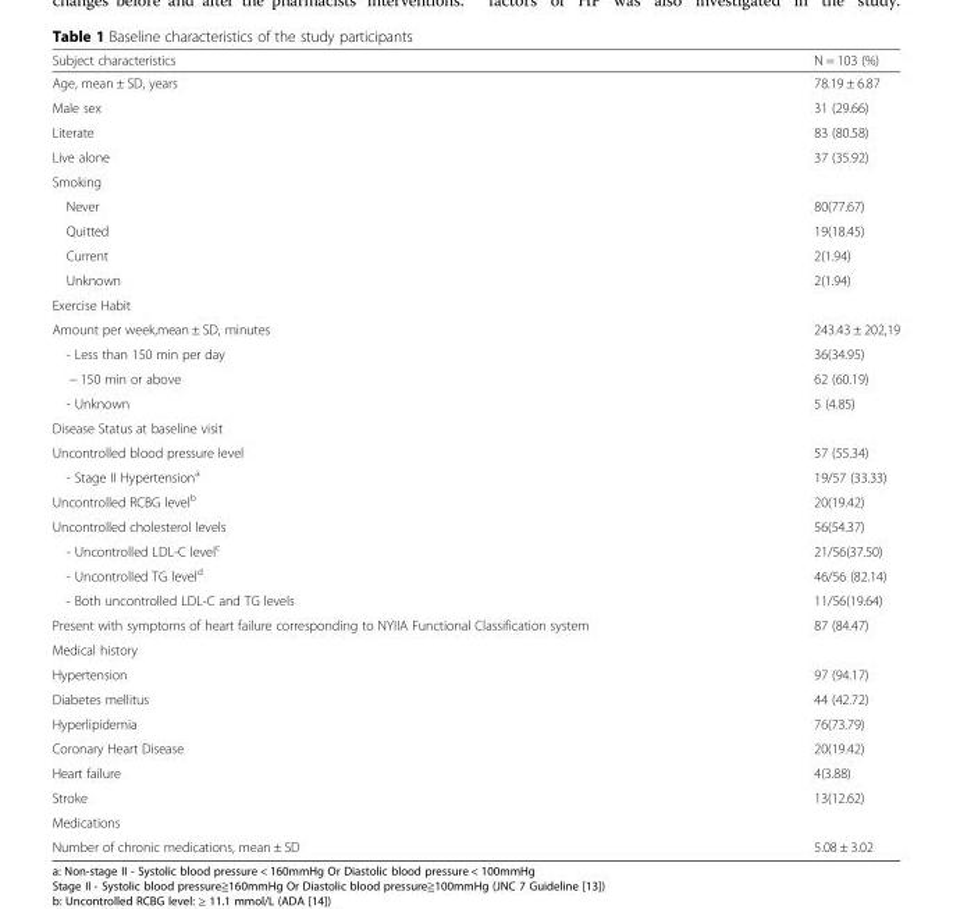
<table><thead><tr><td>Subject characteristics</td><td>N = 103 (%)</td></tr></thead><tbody><tr><td>Age, mean ± SD, years</td><td>78.19 ± 6.87</td></tr><tr><td>Male sex</td><td>31 (29.66)</td></tr><tr><td>Literate</td><td>83 (80.58)</td></tr><tr><td>Live alone</td><td>37 (35.92)</td></tr><tr><td colspan="2">Smoking</td></tr><tr><td>Never</td><td>80(77.67)</td></tr><tr><td>Quitted</td><td>19(18.45)</td></tr><tr><td>Current</td><td>2(1.94)</td></tr><tr><td>Unknown</td><td>2(1.94)</td></tr><tr><td colspan="2">Exercise Habit</td></tr><tr><td>Amount per week,mean ± SD, minutes</td><td>243.43 ± 202,19</td></tr><tr><td>- Less than 150 min per day</td><td>36(34.95)</td></tr><tr><td>− 150 min or above</td><td>62 (60.19)</td></tr><tr><td>- Unknown</td><td>5 (4.85)</td></tr><tr><td colspan="2">Disease Status at baseline visit</td></tr><tr><td>Uncontrolled blood pressure level</td><td>57 (55.34)</td></tr><tr><td>- Stage II Hypertension<sup>a</sup></td><td>19/57 (33.33)</td></tr><tr><td>Uncontrolled RCBG level<sup>b</sup></td><td>20(19.42)</td></tr><tr><td>Uncontrolled cholesterol levels</td><td>56(54.37)</td></tr><tr><td>- Uncontrolled LDL-C level<sup>c</sup></td><td>21/56(37.50)</td></tr><tr><td>- Uncontrolled TG level<sup>d</sup></td><td>46/56 (82.14)</td></tr><tr><td>- Both uncontrolled LDL-C and TG levels</td><td>11/56(19.64)</td></tr><tr><td>Present with symptoms of heart failure corresponding to NYIIA Functional Classification system</td><td>87 (84.47)</td></tr><tr><td colspan="2">Medical history</td></tr><tr><td>Hypertension</td><td>97 (94.17)</td></tr><tr><td>Diabetes mellitus</td><td>44 (42.72)</td></tr><tr><td>Hyperlipidemia</td><td>76(73.79)</td></tr><tr><td>Coronary Heart Disease</td><td>20(19.42)</td></tr><tr><td>Heart failure</td><td>4(3.88)</td></tr><tr><td>Stroke</td><td>13(12.62)</td></tr><tr><td colspan="2">Medications</td></tr><tr><td>Number of chronic medications, mean ± SD</td><td>5.08 ± 3.02</td></tr></tbody></table>